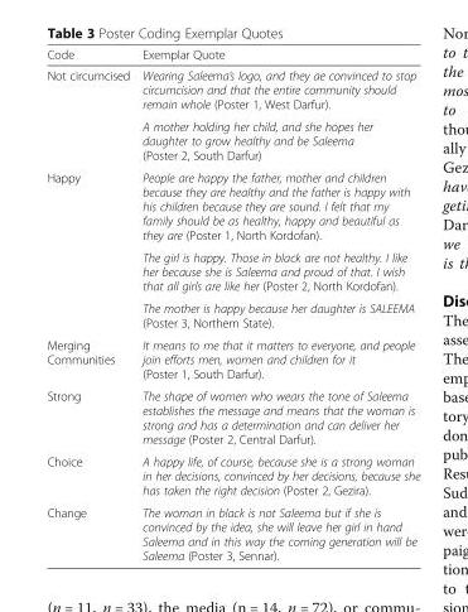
<table><thead><tr><td>Code</td><td>Exemplar Quote</td></tr></thead><tbody><tr><td rowspan="2">Not circumcised</td><td>Wearing Saleema’s logo, and they ae convinced to stop circumcision and that the entire community should remain whole (Poster 1, West Darfur).</td></tr><tr><td>A mother holding her child, and she hopes her daughter to grow healthy and be Saleema (Poster 2, South Darfur)</td></tr><tr><td rowspan="3">Happy</td><td>People are happy the father, mother and children because they are healthy and the father is happy with his children because they are sound. I felt that my family should be as healthy, happy and beautiful as they are (Poster 1, North Kordofan).</td></tr><tr><td>The girl is happy. Those in black are not healthy. I like her because she is Saleema and proud of that. I wish that all girls are like her (Poster 2, North Kordofan).</td></tr><tr><td>The mother is happy because her daughter is SALEEMA (Poster 3, Northern State).</td></tr><tr><td>Merging Communities</td><td>It means to me that it matters to everyone, and people join efforts men, women and children for it (Poster 1, South Darfur).</td></tr><tr><td>Strong</td><td>The shape of women who wears the tone of Saleema establishes the message and means that the woman is strong and has a determination and can deliver her message (Poster 2, Central Darfur).</td></tr><tr><td>Choice</td><td>A happy life, of course, because she is a strong woman in her decisions, convinced by her decisions, because she has taken the right decision (Poster 2, Gezira).</td></tr><tr><td>Change</td><td>The woman in black is not Saleema but if she is convinced by the idea, she will leave her girl in hand Saleema and in this way the coming generation will be Saleema (Poster 3, Sennar).</td></tr></tbody></table>